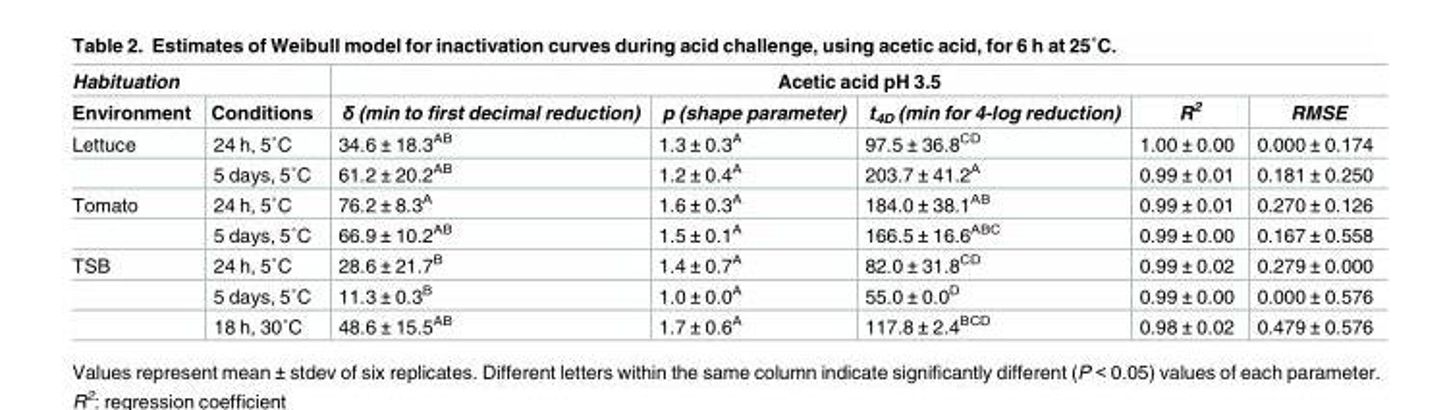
<table><thead><tr><td colspan="2">Habituation</td><td colspan="5">Acetic acid pH 3.5</td></tr><tr><td>Environment</td><td>Conditions</td><td>δ (min to first decimal reduction)</td><td>p (shape parameter)</td><td>t<sub>4D</sub> (min for 4-log reduction)</td><td>R<sup>2</sup></td><td>RMSE</td></tr></thead><tbody><tr><td rowspan="2">Lettuce</td><td>24 h, 5˚C</td><td>34.6 ± 18.3<sup>AB</sup></td><td>1.3 ± 0.3<sup>A</sup></td><td>97.5 ± 36.8<sup>CD</sup></td><td>1.00 ± 0.00</td><td>0.000 ± 0.174</td></tr><tr><td>5 days, 5˚C</td><td>61.2 ± 20.2<sup>AB</sup></td><td>1.2 ± 0.4<sup>A</sup></td><td>203.7 ± 41.2<sup>A</sup></td><td>0.99 ± 0.01</td><td>0.181 ± 0.250</td></tr><tr><td rowspan="2">Tomato</td><td>24 h, 5˚C</td><td>76.2 ± 8.3<sup>A</sup></td><td>1.6 ± 0.3<sup>A</sup></td><td>184.0 ± 38.1<sup>AB</sup></td><td>0.99 ± 0.01</td><td>0.270 ± 0.126</td></tr><tr><td>5 days, 5˚C</td><td>66.9 ± 10.2<sup>AB</sup></td><td>1.5 ± 0.1<sup>A</sup></td><td>166.5 ± 16.6<sup>ABC</sup></td><td>0.99 ± 0.00</td><td>0.167 ± 0.558</td></tr><tr><td rowspan="3">TSB</td><td>24 h, 5˚C</td><td>28.6 ± 21.7<sup>B</sup></td><td>1.4 ± 0.7<sup>A</sup></td><td>82.0 ± 31.8<sup>CD</sup></td><td>0.99 ± 0.02</td><td>0.279 ± 0.000</td></tr><tr><td>5 days, 5˚C</td><td>11.3 ± 0.3<sup>B</sup></td><td>1.0 ± 0.0<sup>A</sup></td><td>55.0 ± 0.0<sup>D</sup></td><td>0.99 ± 0.00</td><td>0.000 ± 0.576</td></tr><tr><td>18 h, 30˚C</td><td>48.6 ± 15.5<sup>AB</sup></td><td>1.7 ± 0.6<sup>A</sup></td><td>117.8 ± 2.4<sup>BCD</sup></td><td>0.98 ± 0.02</td><td>0.479 ± 0.576</td></tr></tbody></table>